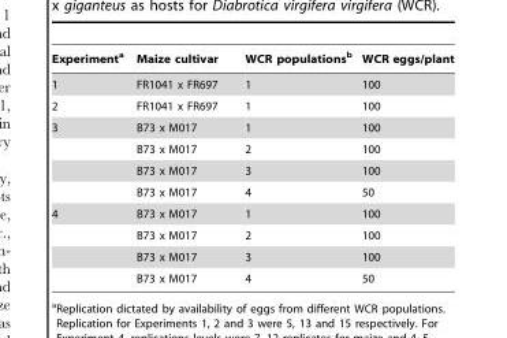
<table><thead><tr><td>Experiment<sup>a</sup></td><td>Maize cultivar</td><td>WCR populations<sup>b</sup></td><td>WCR eggs/plant</td></tr></thead><tbody><tr><td>1</td><td>FR1041 x FR697</td><td>1</td><td>100</td></tr><tr><td>2</td><td>FR1041 x FR697</td><td>1</td><td>100</td></tr><tr><td rowspan="4">3</td><td>B73 x M017</td><td>1</td><td>100</td></tr><tr><td>B73 x M017</td><td>2</td><td>100</td></tr><tr><td>B73 x M017</td><td>3</td><td>100</td></tr><tr><td>B73 x M017</td><td>4</td><td>50</td></tr><tr><td rowspan="4">4</td><td>B73 x M017</td><td>1</td><td>100</td></tr><tr><td>B73 x M017</td><td>2</td><td>100</td></tr><tr><td>B73 x M017</td><td>3</td><td>100</td></tr><tr><td>B73 x M017</td><td>4</td><td>50</td></tr></tbody></table>